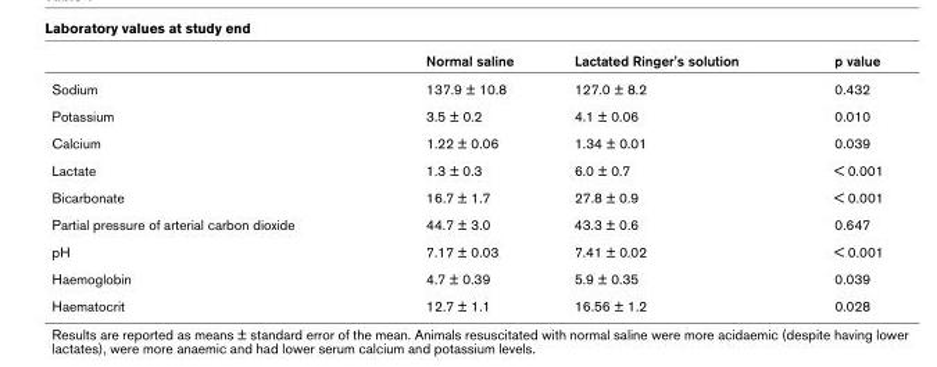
<table><thead><tr><td></td><td>Normal saline</td><td>Lactated Ringer&#x27;s solution</td><td>p value</td></tr></thead><tbody><tr><td>Sodium</td><td>137.9 ± 10.8</td><td>127.0 ± 8.2</td><td>0.432</td></tr><tr><td>Potassium</td><td>3.5 ± 0.2</td><td>4.1 ± 0.06</td><td>0.010</td></tr><tr><td>Calcium</td><td>1.22 ± 0.06</td><td>1.34 ± 0.01</td><td>0.039</td></tr><tr><td>Lactate</td><td>1.3 ± 0.3</td><td>6.0 ± 0.7</td><td>&lt; 0.001</td></tr><tr><td>Bicarbonate</td><td>16.7 ± 1.7</td><td>27.8 ± 0.9</td><td>&lt; 0.001</td></tr><tr><td>Partial pressure of arterial carbon dioxide</td><td>44.7 ± 3.0</td><td>43.3 ± 0.6</td><td>0.647</td></tr><tr><td>pH</td><td>7.17 ± 0.03</td><td>7.41 ± 0.02</td><td>&lt; 0.001</td></tr><tr><td>Haemoglobin</td><td>4.7 ± 0.39</td><td>5.9 ± 0.35</td><td>0.039</td></tr><tr><td>Haematocrit</td><td>12.7 ± 1.1</td><td>16.56 ± 1.2</td><td>0.028</td></tr></tbody></table>